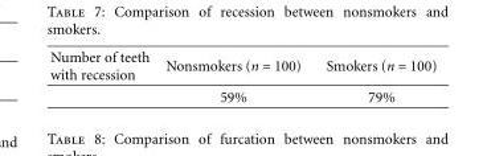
<table><thead><tr><td>Number of teeth with recession</td><td>Nonsmokers (n = 100)</td><td>Smokers (n = 100)</td></tr></thead><tbody><tr><td></td><td>59%</td><td>79%</td></tr></tbody></table>